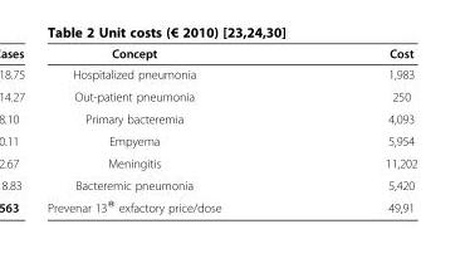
<table><thead><tr><td>Concept</td><td>Cost</td></tr></thead><tbody><tr><td>Hospitalized pneumonia</td><td>1,983</td></tr><tr><td>Out-patient pneumonia</td><td>250</td></tr><tr><td>Primary bacteremia</td><td>4,093</td></tr><tr><td>Empyema</td><td>5,954</td></tr><tr><td>Meningitis</td><td>11,202</td></tr><tr><td>Bacteremic pneumonia</td><td>5,420</td></tr><tr><td>Prevenar 13® exfactory price/dose</td><td>49,91</td></tr></tbody></table>